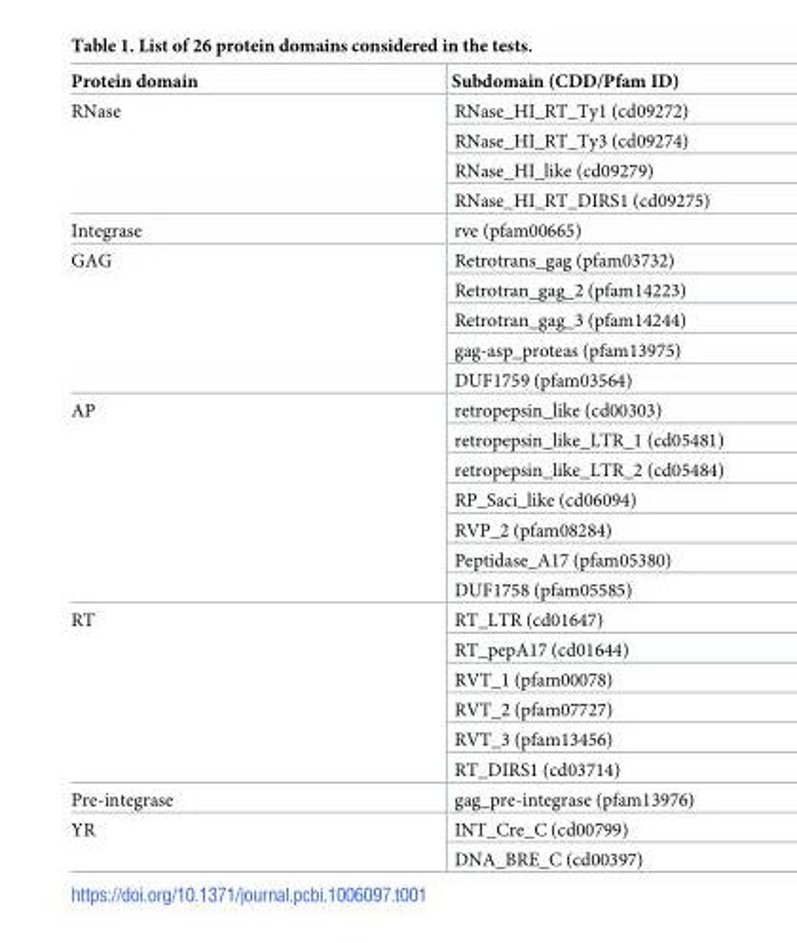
<table><thead><tr><td>Protein domain</td><td>Subdomain (CDD/Pfam ID)</td></tr></thead><tbody><tr><td rowspan="4">RNase</td><td>RNase_HI_RT_Ty1 (cd09272)</td></tr><tr><td>RNase_HI_RT_Ty3 (cd09274)</td></tr><tr><td>RNase_HI_like (cd09279)</td></tr><tr><td>RNase_HI_RT_DIRS1 (cd09275)</td></tr><tr><td>Integrase</td><td>rve (pfam00665)</td></tr><tr><td rowspan="5">GAG</td><td>Retrotrans_gag (pfam03732)</td></tr><tr><td>Retrotran_gag_2 (pfam14223)</td></tr><tr><td>Retrotran_gag_3 (pfam14244)</td></tr><tr><td>gag-asp_proteas (pfam13975)</td></tr><tr><td>DUF1759 (pfam03564)</td></tr><tr><td rowspan="7">AP</td><td>retropepsin_like (cd00303)</td></tr><tr><td>retropepsin_like_LTR_1 (cd05481)</td></tr><tr><td>retropepsin_like_LTR_2 (cd05484)</td></tr><tr><td>RP_Saci_like (cd06094)</td></tr><tr><td>RVP_2 (pfam08284)</td></tr><tr><td>Peptidase_A17 (pfam05380)</td></tr><tr><td>DUF1758 (pfam05585)</td></tr><tr><td rowspan="6">RT</td><td>RT_LTR (cd01647)</td></tr><tr><td>RT_pepA17 (cd01644)</td></tr><tr><td>RVT_1 (pfam00078)</td></tr><tr><td>RVT_2 (pfam07727)</td></tr><tr><td>RVT_3 (pfam13456)</td></tr><tr><td>RT_DIRS1 (cd03714)</td></tr><tr><td>Pre-integrase</td><td>gag_pre-integrase (pfam13976)</td></tr><tr><td rowspan="2">YR</td><td>INT_Cre_C (cd00799)</td></tr><tr><td>DNA_BRE_C (cd00397)</td></tr></tbody></table>